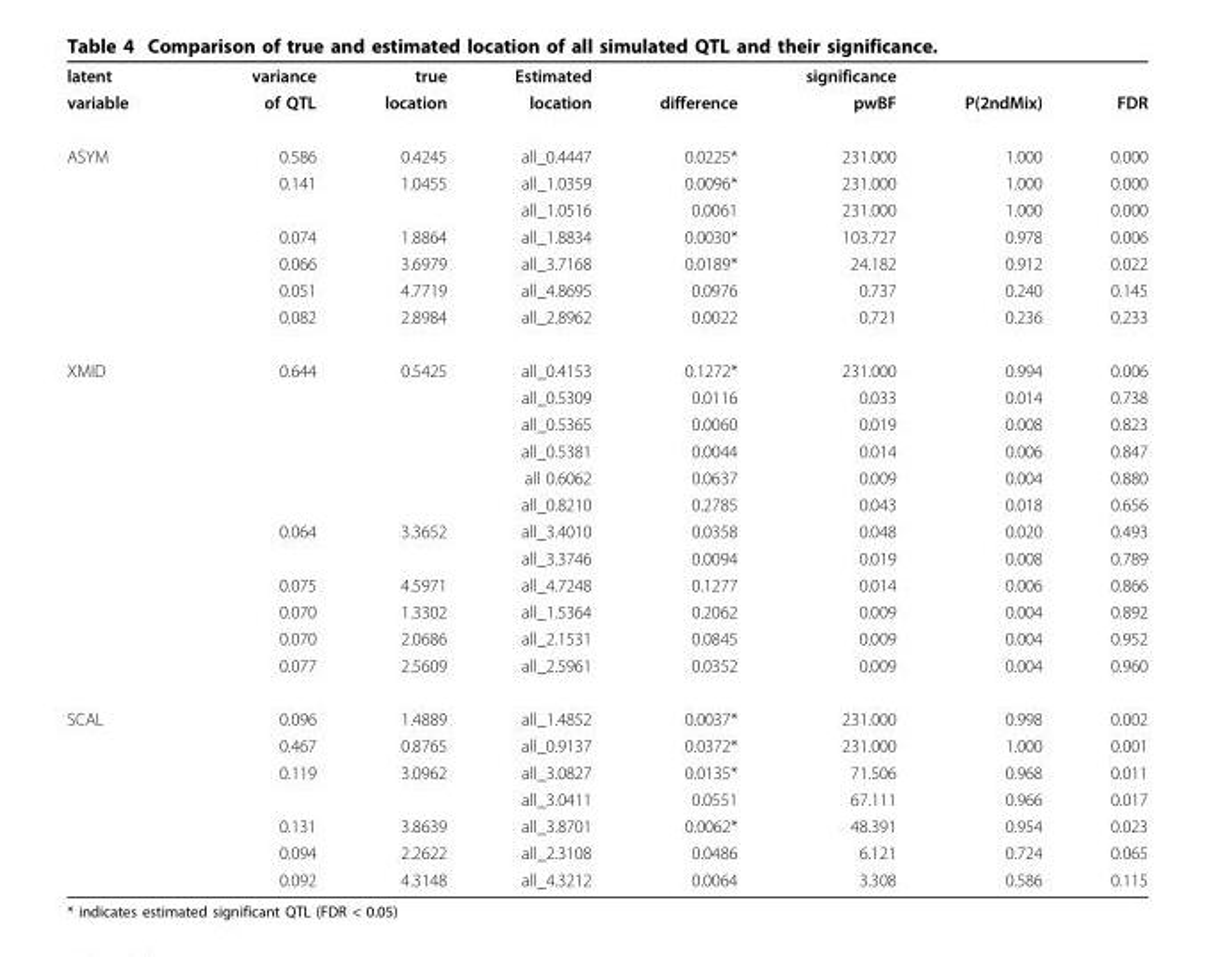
<table><tbody><tr><td>latent</td><td>variance</td><td>true</td><td>Estimated</td><td></td><td>significance</td><td></td><td></td></tr><tr><td>variable</td><td>of QTL</td><td>location</td><td>location</td><td>difference</td><td>pwBF</td><td>P(2ndMix)</td><td>FDR</td></tr><tr><td rowspan="7">ASYM</td><td>0.586</td><td>0.4245</td><td>all_0.4447</td><td>0.0225*</td><td>231.000</td><td>1.000</td><td>0.000</td></tr><tr><td>0.141</td><td>1.0455</td><td>all_1.0359</td><td>0.0096*</td><td>231.000</td><td>1.000</td><td>0.000</td></tr><tr><td></td><td></td><td>all_1.0516</td><td>0.0061</td><td>231.000</td><td>1.000</td><td>0.000</td></tr><tr><td>0.074</td><td>1.8864</td><td>all_1.8834</td><td>0.0030*</td><td>103.727</td><td>0.978</td><td>0.006</td></tr><tr><td>0.066</td><td>3.6979</td><td>all_3.7168</td><td>0.0189*</td><td>24.182</td><td>0.912</td><td>0.022</td></tr><tr><td>0.051</td><td>4.7719</td><td>all_4.8695</td><td>0.0976</td><td>0.737</td><td>0.240</td><td>0.145</td></tr><tr><td>0.082</td><td>2.8984</td><td>all_2.8962</td><td>0.0022</td><td>0.721</td><td>0.236</td><td>0.233</td></tr><tr><td rowspan="12">XMID</td><td>0.644</td><td>0.5425</td><td>all_0.4153</td><td>0.1272*</td><td>231.000</td><td>0.994</td><td>0.006</td></tr><tr><td></td><td></td><td>all_0.5309</td><td>0.0116</td><td>0.033</td><td>0.014</td><td>0.738</td></tr><tr><td></td><td></td><td>all_0.5365</td><td>0.0060</td><td>0.019</td><td>0.008</td><td>0.823</td></tr><tr><td></td><td></td><td>all_0.5381</td><td>0.0044</td><td>0.014</td><td>0.006</td><td>0.847</td></tr><tr><td></td><td></td><td>all 0.6062</td><td>0.0637</td><td>0.009</td><td>0.004</td><td>0.880</td></tr><tr><td></td><td></td><td>all_0.8210</td><td>0.2785</td><td>0.043</td><td>0.018</td><td>0.656</td></tr><tr><td>0.064</td><td>3.3652</td><td>all_3.4010</td><td>0.0358</td><td>0.048</td><td>0.020</td><td>0.493</td></tr><tr><td></td><td></td><td>all_3.3746</td><td>0.0094</td><td>0.019</td><td>0.008</td><td>0.789</td></tr><tr><td>0.075</td><td>4.5971</td><td>all_4.7248</td><td>0.1277</td><td>0.014</td><td>0.006</td><td>0.866</td></tr><tr><td>0.070</td><td>1.3302</td><td>all_1.5364</td><td>0.2062</td><td>0.009</td><td>0.004</td><td>0.892</td></tr><tr><td>0.070</td><td>2.0686</td><td>all_2.1531</td><td>0.0845</td><td>0.009</td><td>0.004</td><td>0.952</td></tr><tr><td>0.077</td><td>2.5609</td><td>all_2.5961</td><td>0.0352</td><td>0.009</td><td>0.004</td><td>0.960</td></tr><tr><td rowspan="7">SCAL</td><td>0.096</td><td>1.4889</td><td>all_1.4852</td><td>0.0037*</td><td>231.000</td><td>0.998</td><td>0.002</td></tr><tr><td>0.467</td><td>0.8765</td><td>all_0.9137</td><td>0.0372*</td><td>231.000</td><td>1.000</td><td>0.001</td></tr><tr><td>0.119</td><td>3.0962</td><td>all_3.0827</td><td>0.0135*</td><td>71.506</td><td>0.968</td><td>0.011</td></tr><tr><td></td><td></td><td>all_3.0411</td><td>0.0551</td><td>67.111</td><td>0.966</td><td>0.017</td></tr><tr><td>0.131</td><td>3.8639</td><td>all_3.8701</td><td>0.0062*</td><td>48.391</td><td>0.954</td><td>0.023</td></tr><tr><td>0.094</td><td>2.2622</td><td>all_2.3108</td><td>0.0486</td><td>6.121</td><td>0.724</td><td>0.065</td></tr><tr><td>0.092</td><td>4.3148</td><td>all_4.3212</td><td>0.0064</td><td>3.308</td><td>0.586</td><td>0.115</td></tr></tbody></table>